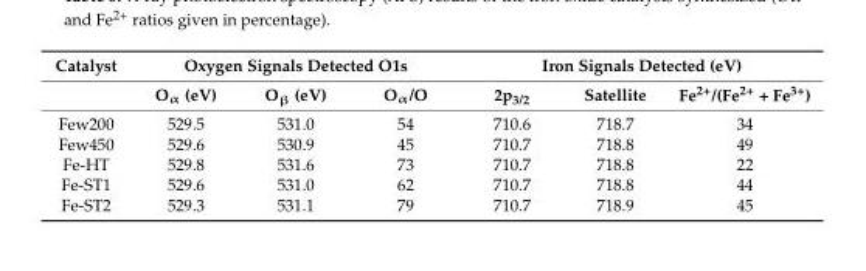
<table><thead><tr><td rowspan="2">Catalyst</td><td colspan="3">Oxygen Signals Detected O1s</td><td colspan="3">Iron Signals Detected (eV)</td></tr><tr><td>O<sub>α</sub> (eV)</td><td>O<sub>β</sub> (eV)</td><td>O<sub>α</sub>/O</td><td>2p<sub>3/2</sub></td><td>Satellite</td><td>Fe<sup>2+</sup>/(Fe<sup>2+</sup> + Fe<sup>3+</sup>)</td></tr></thead><tbody><tr><td>Few200</td><td>529.5</td><td>531.0</td><td>54</td><td>710.6</td><td>718.7</td><td>34</td></tr><tr><td>Few450</td><td>529.6</td><td>530.9</td><td>45</td><td>710.7</td><td>718.8</td><td>49</td></tr><tr><td>Fe-HT</td><td>529.8</td><td>531.6</td><td>73</td><td>710.7</td><td>718.8</td><td>22</td></tr><tr><td>Fe-ST1</td><td>529.6</td><td>531.0</td><td>62</td><td>710.7</td><td>718.8</td><td>44</td></tr><tr><td>Fe-ST2</td><td>529.3</td><td>531.1</td><td>79</td><td>710.7</td><td>718.9</td><td>45</td></tr></tbody></table>